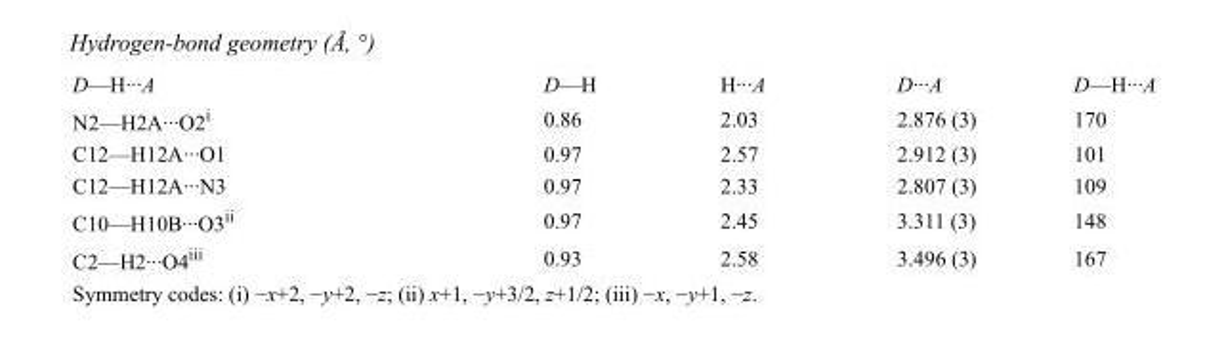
<table><tbody><tr><td>D—H···A</td><td>D—H</td><td>H···A</td><td>D···A</td><td>D—H···A</td></tr><tr><td>N2—H2A···O2<sup>i</sup></td><td>0.86</td><td>2.03</td><td>2.876 (3)</td><td>170</td></tr><tr><td>C12—H12A···O1</td><td>0.97</td><td>2.57</td><td>2.912 (3)</td><td>101</td></tr><tr><td>C12—H12A···N3</td><td>0.97</td><td>2.33</td><td>2.807 (3)</td><td>109</td></tr><tr><td>C10—H10B···O3<sup>ii</sup></td><td>0.97</td><td>2.45</td><td>3.311 (3)</td><td>148</td></tr><tr><td>C2—H2···O4<sup>iii</sup></td><td>0.93</td><td>2.58</td><td>3.496 (3)</td><td>167</td></tr></tbody></table>